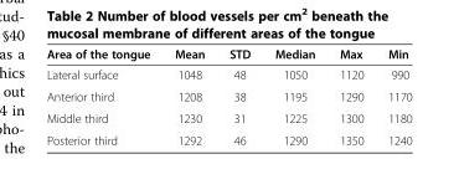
<table><thead><tr><td>Area of the tongue</td><td>Mean</td><td>STD</td><td>Median</td><td>Max</td><td>Min</td></tr></thead><tbody><tr><td>Lateral surface</td><td>1048</td><td>48</td><td>1050</td><td>1120</td><td>990</td></tr><tr><td>Anterior third</td><td>1208</td><td>38</td><td>1195</td><td>1290</td><td>1170</td></tr><tr><td>Middle third</td><td>1230</td><td>31</td><td>1225</td><td>1300</td><td>1180</td></tr><tr><td>Posterior third</td><td>1292</td><td>46</td><td>1290</td><td>1350</td><td>1240</td></tr></tbody></table>